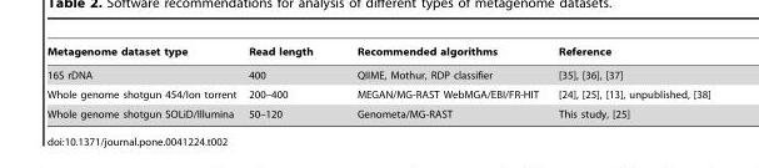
<table><thead><tr><td>Metagenome dataset type</td><td>Read length</td><td>Recommended algorithms</td><td>Reference</td></tr></thead><tbody><tr><td>16S rDNA</td><td>400</td><td>QIIME, Mothur, RDP classifier</td><td>[35], [36], [37]</td></tr><tr><td>Whole genome shotgun 454/Ion torrent</td><td>200–400</td><td>MEGAN/MG-RAST WebMGA/EBI/FR-HIT</td><td>[24], [25], [13], unpublished, [38]</td></tr><tr><td>Whole genome shotgun SOLiD/Illumina</td><td>50–120</td><td>Genometa/MG-RAST</td><td>This study, [25]</td></tr></tbody></table>